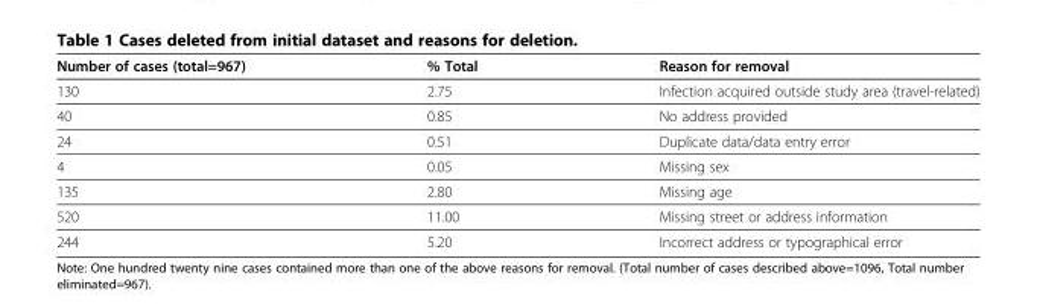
<table><thead><tr><td>Number of cases (total=967)</td><td>% Total</td><td>Reason for removal</td></tr></thead><tbody><tr><td>130</td><td>2.75</td><td>Infection acquired outside study area (travel-related)</td></tr><tr><td>40</td><td>0.85</td><td>No address provided</td></tr><tr><td>24</td><td>0.51</td><td>Duplicate data/data entry error</td></tr><tr><td>4</td><td>0.05</td><td>Missing sex</td></tr><tr><td>135</td><td>2.80</td><td>Missing age</td></tr><tr><td>520</td><td>11.00</td><td>Missing street or address information</td></tr><tr><td>244</td><td>5.20</td><td>Incorrect address or typographical error</td></tr></tbody></table>